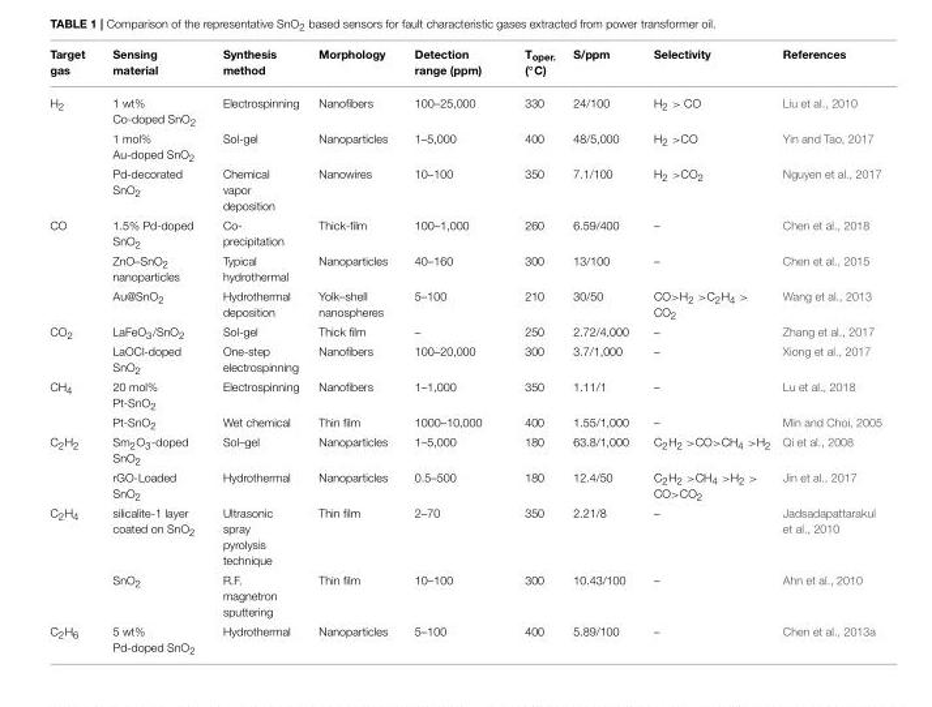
<table><thead><tr><td>Target gas</td><td>Sensing material</td><td>Synthesis method</td><td>Morphology</td><td>Detection range (ppm)</td><td>Toper. (◦C)</td><td>S/ppm</td><td>Selectivity</td><td>References</td></tr></thead><tbody><tr><td rowspan="3">H<sub>2</sub></td><td>1 wt% Co-doped SnO<sub>2</sub></td><td>Electrospinning</td><td>Nanofibers</td><td>100–25,000</td><td>330</td><td>24/100</td><td>H<sub>2</sub> &gt; CO</td><td>Liu et al., 2010</td></tr><tr><td>1 mol% Au-doped SnO<sub>2</sub></td><td>Sol-gel</td><td>Nanoparticles</td><td>1–5,000</td><td>400</td><td>48/5,000</td><td>H<sub>2</sub> &gt;CO</td><td>Yin and Tao, 2017</td></tr><tr><td>Pd-decorated SnO<sub>2</sub></td><td>Chemical vapor deposition</td><td>Nanowires</td><td>10–100</td><td>350</td><td>7.1/100</td><td>H<sub>2</sub> &gt;CO<sub>2</sub></td><td>Nguyen et al., 2017</td></tr><tr><td rowspan="3">CO</td><td>1.5% Pd-doped SnO<sub>2</sub></td><td>Co- precipitation</td><td>Thick-film</td><td>100–1,000</td><td>260</td><td>6.59/400</td><td>–</td><td>Chen et al., 2018</td></tr><tr><td>ZnO–SnO<sub>2</sub> nanoparticles</td><td>Typical hydrothermal</td><td>Nanoparticles</td><td>40–160</td><td>300</td><td>13/100</td><td>–</td><td>Chen et al., 2015</td></tr><tr><td>Au@SnO<sub>2</sub></td><td>Hydrothermal deposition</td><td>Yolk–shell nanospheres</td><td>5–100</td><td>210</td><td>30/50</td><td>CO&gt;H<sub>2</sub> &gt;C<sub>2</sub>H<sub>4</sub> &gt; CO<sub>2</sub></td><td>Wang et al., 2013</td></tr><tr><td rowspan="2">CO<sub>2</sub></td><td>LaFeO<sub>3</sub>/SnO<sub>2</sub></td><td>Sol-gel</td><td>Thick film</td><td>–</td><td>250</td><td>2.72/4,000</td><td>–</td><td>Zhang et al., 2017</td></tr><tr><td>LaOCl-doped SnO<sub>2</sub></td><td>One-step electrospinning</td><td>Nanofibers</td><td>100–20,000</td><td>300</td><td>3.7/1,000</td><td>–</td><td>Xiong et al., 2017</td></tr><tr><td rowspan="2">CH<sub>4</sub></td><td>20 mol% Pt-SnO<sub>2</sub></td><td>Electrospinning</td><td>Nanofibers</td><td>1–1,000</td><td>350</td><td>1.11/1</td><td>–</td><td>Lu et al., 2018</td></tr><tr><td>Pt-SnO<sub>2</sub></td><td>Wet chemical</td><td>Thin film</td><td>1000–10,000</td><td>400</td><td>1.55/1,000</td><td>–</td><td>Min and Choi, 2005</td></tr><tr><td rowspan="2">C<sub>2</sub>H<sub>2</sub></td><td>Sm<sub>2</sub>O<sub>3</sub>-doped SnO<sub>2</sub></td><td>Sol–gel</td><td>Nanoparticles</td><td>1–5,000</td><td>180</td><td>63.8/1,000</td><td>C<sub>2</sub>H<sub>2</sub> &gt;CO&gt;CH<sub>4</sub> &gt;H<sub>2</sub></td><td>Qi et al., 2008</td></tr><tr><td>rGO-Loaded SnO<sub>2</sub></td><td>Hydrothermal</td><td>Nanoparticles</td><td>0.5–500</td><td>180</td><td>12.4/50</td><td>C<sub>2</sub>H<sub>2</sub> &gt;CH<sub>4</sub> &gt;H<sub>2</sub> &gt; CO&gt;CO<sub>2</sub></td><td>Jin et al., 2017</td></tr><tr><td rowspan="2">C<sub>2</sub>H<sub>4</sub></td><td>silicalite-1 layer coated on SnO<sub>2</sub></td><td>Ultrasonic spray pyrolysis technique</td><td>Thin film</td><td>2–70</td><td>350</td><td>2.21/8</td><td>–</td><td>Jadsadapattarakul et al., 2010</td></tr><tr><td>SnO<sub>2</sub></td><td>R.F. magnetron sputtering</td><td>Thin film</td><td>10–100</td><td>300</td><td>10.43/100</td><td>–</td><td>Ahn et al., 2010</td></tr><tr><td>C<sub>2</sub>H<sub>6</sub></td><td>5 wt% Pd-doped SnO<sub>2</sub></td><td>Hydrothermal</td><td>Nanoparticles</td><td>5–100</td><td>400</td><td>5.89/100</td><td>–</td><td>Chen et al., 2013a</td></tr></tbody></table>